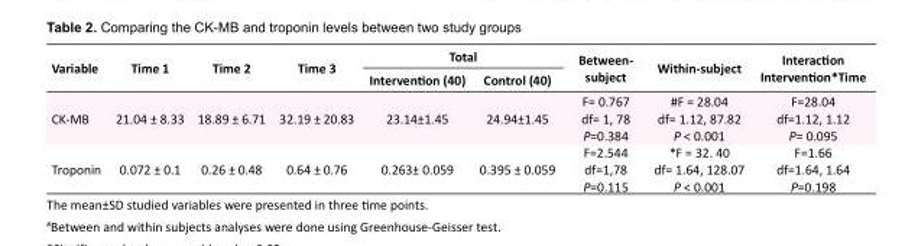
<table><tbody><tr><td rowspan="2">Variable</td><td rowspan="2">Time 1</td><td rowspan="2">Time 2</td><td rowspan="2">Time 3</td><td colspan="2">Total</td><td rowspan="2">Between- subject</td><td rowspan="2">Within-subject</td><td rowspan="2">Interaction Intervention*Time</td></tr><tr><td>Intervention (40)</td><td>Control (40)</td></tr><tr><td>CK-MB</td><td>21.04 ± 8.33</td><td>18.89 ± 6.71</td><td>32.19 ± 20.83</td><td>23.14±1.45</td><td>24.94±1.45</td><td>F= 0.767 df= 1, 78 P=0.384</td><td>#F = 28.04 df= 1.12, 87.82 P &lt; 0.001</td><td>F=28.04 df=1.12, 1.12 P= 0.095</td></tr><tr><td>Troponin</td><td>0.072 ± 0.1</td><td>0.26 ± 0.48</td><td>0.64 ± 0.76</td><td>0.263± 0.059</td><td>0.395 ± 0.059</td><td>F=2.544 df=1,78 P=0.115</td><td>*F = 32. 40 df= 1.64, 128.07 P &lt; 0.001</td><td>F=1.66 df=1.64, 1.64 P=0.198</td></tr></tbody></table>